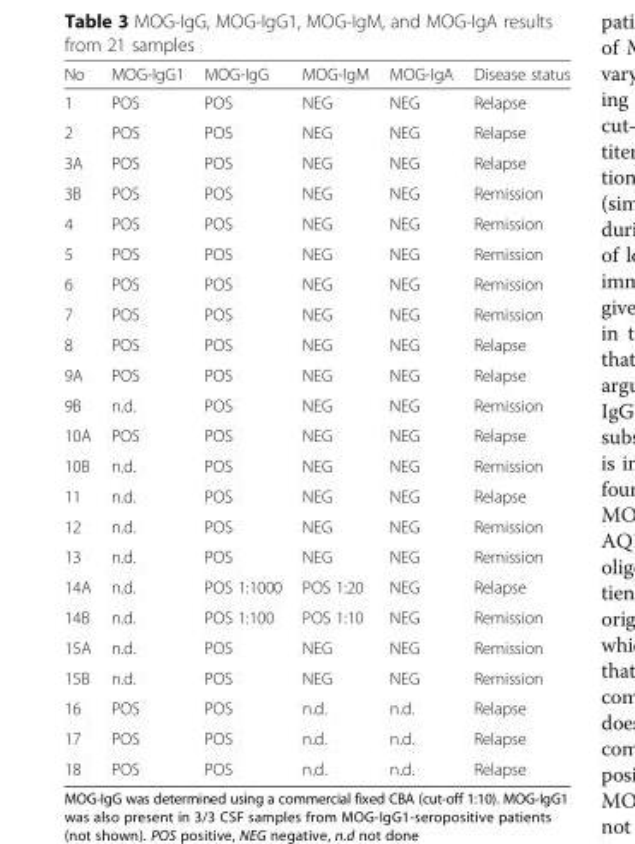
<table><thead><tr><td>No</td><td>MOG-IgG1</td><td>MOG-IgG</td><td>MOG-IgM</td><td>MOG-IgA</td><td>Disease status</td></tr></thead><tbody><tr><td>1</td><td>POS</td><td>POS</td><td>NEG</td><td>NEG</td><td>Relapse</td></tr><tr><td>2</td><td>POS</td><td>POS</td><td>NEG</td><td>NEG</td><td>Relapse</td></tr><tr><td>3A</td><td>POS</td><td>POS</td><td>NEG</td><td>NEG</td><td>Relapse</td></tr><tr><td>3B</td><td>POS</td><td>POS</td><td>NEG</td><td>NEG</td><td>Remission</td></tr><tr><td>4</td><td>POS</td><td>POS</td><td>NEG</td><td>NEG</td><td>Remission</td></tr><tr><td>5</td><td>POS</td><td>POS</td><td>NEG</td><td>NEG</td><td>Remission</td></tr><tr><td>6</td><td>POS</td><td>POS</td><td>NEG</td><td>NEG</td><td>Remission</td></tr><tr><td>7</td><td>POS</td><td>POS</td><td>NEG</td><td>NEG</td><td>Remission</td></tr><tr><td>8</td><td>POS</td><td>POS</td><td>NEG</td><td>NEG</td><td>Relapse</td></tr><tr><td>9A</td><td>POS</td><td>POS</td><td>NEG</td><td>NEG</td><td>Relapse</td></tr><tr><td>9B</td><td>n.d.</td><td>POS</td><td>NEG</td><td>NEG</td><td>Remission</td></tr><tr><td>10A</td><td>POS</td><td>POS</td><td>NEG</td><td>NEG</td><td>Relapse</td></tr><tr><td>10B</td><td>n.d.</td><td>POS</td><td>NEG</td><td>NEG</td><td>Remission</td></tr><tr><td>11</td><td>n.d.</td><td>POS</td><td>NEG</td><td>NEG</td><td>Relapse</td></tr><tr><td>12</td><td>n.d.</td><td>POS</td><td>NEG</td><td>NEG</td><td>Remission</td></tr><tr><td>13</td><td>n.d.</td><td>POS</td><td>NEG</td><td>NEG</td><td>Remission</td></tr><tr><td>14A</td><td>n.d.</td><td>POS 1:1000</td><td>POS 1:20</td><td>NEG</td><td>Relapse</td></tr><tr><td>14B</td><td>n.d.</td><td>POS 1:100</td><td>POS 1:10</td><td>NEG</td><td>Remission</td></tr><tr><td>15A</td><td>n.d.</td><td>POS</td><td>NEG</td><td>NEG</td><td>Remission</td></tr><tr><td>15B</td><td>n.d.</td><td>POS</td><td>NEG</td><td>NEG</td><td>Remission</td></tr><tr><td>16</td><td>POS</td><td>POS</td><td>n.d.</td><td>n.d.</td><td>Relapse</td></tr><tr><td>17</td><td>POS</td><td>POS</td><td>n.d.</td><td>n.d.</td><td>Relapse</td></tr><tr><td>18</td><td>POS</td><td>POS</td><td>n.d.</td><td>n.d.</td><td>Relapse</td></tr></tbody></table>